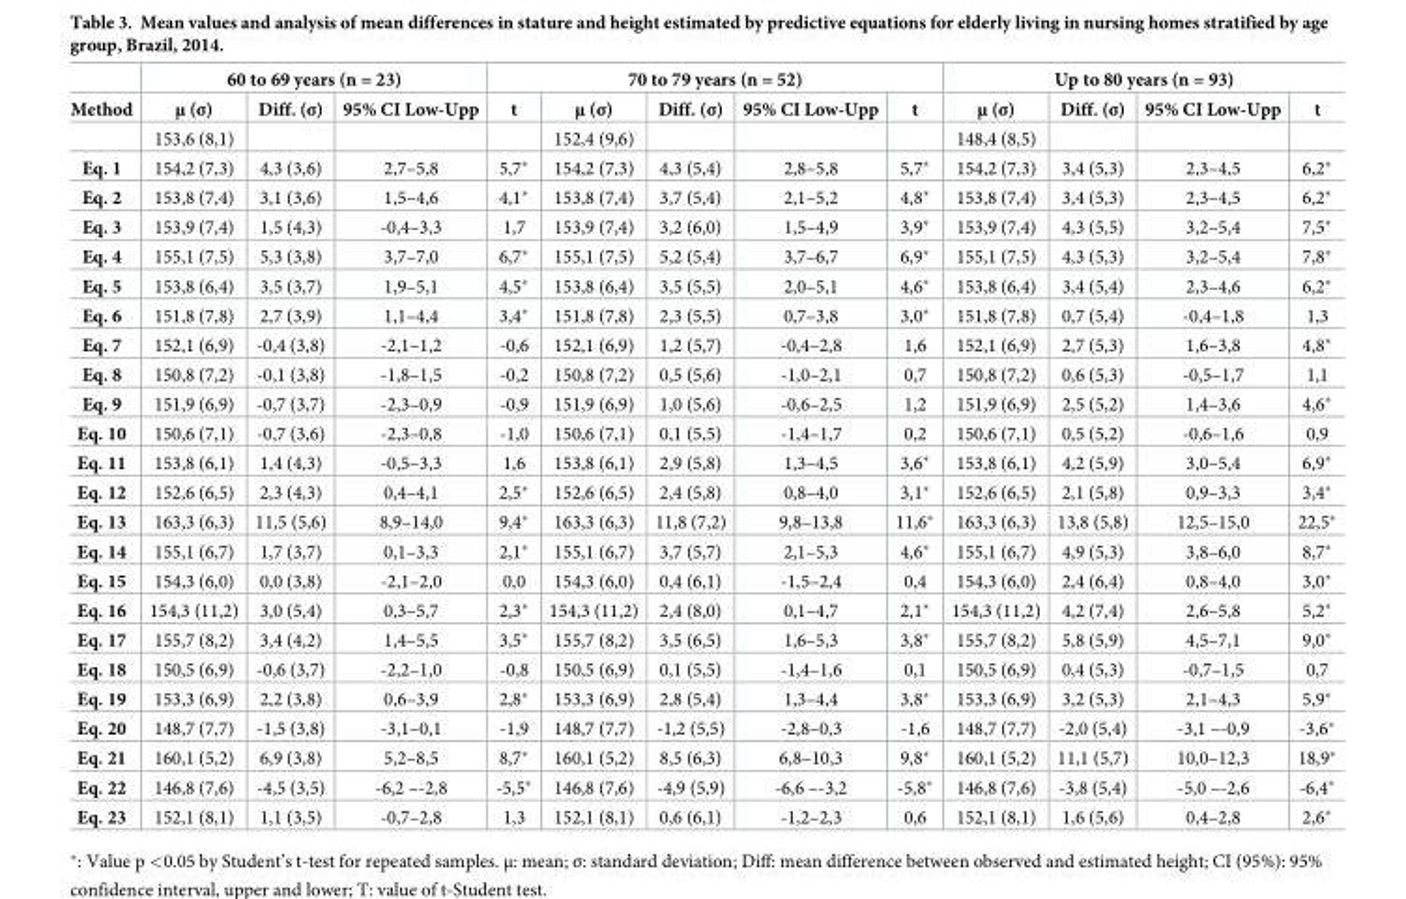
<table><thead><tr><td rowspan="2">Method</td><td colspan="3">60 to 69 years (n = 23)</td><td colspan="5">70 to 79 years (n = 52)</td><td colspan="4">Up to 80 years (n = 93)</td></tr><tr><td>μ (σ)</td><td>Diff. (σ)</td><td>95% CI Low-Upp</td><td>t</td><td>μ (σ)</td><td>Diff. (σ)</td><td>95% CI Low-Upp</td><td>t</td><td>μ (σ)</td><td>Diff. (σ)</td><td>95% CI Low-Upp</td><td>t</td></tr></thead><tbody><tr><td></td><td>153,6 (8,1)</td><td></td><td></td><td></td><td>152,4 (9,6)</td><td></td><td></td><td></td><td>148,4 (8,5)</td><td></td><td></td><td></td></tr><tr><td>Eq. 1</td><td>154,2 (7,3)</td><td>4,3 (3,6)</td><td>2,7–5,8</td><td>5,7*</td><td>154,2 (7,3)</td><td>4,3 (5,4)</td><td>2,8–5,8</td><td>5,7*</td><td>154,2 (7,3)</td><td>3,4 (5,3)</td><td>2,3–4,5</td><td>6,2*</td></tr><tr><td>Eq. 2</td><td>153,8 (7,4)</td><td>3,1 (3,6)</td><td>1,5–4,6</td><td>4,1*</td><td>153,8 (7,4)</td><td>3,7 (5,4)</td><td>2,1–5,2</td><td>4,8*</td><td>153,8 (7,4)</td><td>3,4 (5,3)</td><td>2,3–4,5</td><td>6,2*</td></tr><tr><td>Eq. 3</td><td>153,9 (7,4)</td><td>1,5 (4,3)</td><td>-0,4–3,3</td><td>1,7</td><td>153,9 (7,4)</td><td>3,2 (6,0)</td><td>1,5–4,9</td><td>3,9*</td><td>153,9 (7,4)</td><td>4,3 (5,5)</td><td>3,2–5,4</td><td>7,5*</td></tr><tr><td>Eq. 4</td><td>155,1 (7,5)</td><td>5,3 (3,8)</td><td>3,7–7,0</td><td>6,7*</td><td>155,1 (7,5)</td><td>5,2 (5,4)</td><td>3,7–6,7</td><td>6,9*</td><td>155,1 (7,5)</td><td>4,3 (5,3)</td><td>3,2–5,4</td><td>7,8*</td></tr><tr><td>Eq. 5</td><td>153,8 (6,4)</td><td>3,5 (3,7)</td><td>1,9–5,1</td><td>4,5*</td><td>153,8 (6,4)</td><td>3,5 (5,5)</td><td>2,0–5,1</td><td>4,6*</td><td>153,8 (6,4)</td><td>3,4 (5,4)</td><td>2,3–4,6</td><td>6,2*</td></tr><tr><td>Eq. 6</td><td>151,8 (7,8)</td><td>2,7 (3,9)</td><td>1,1–4,4</td><td>3,4*</td><td>151,8 (7,8)</td><td>2,3 (5,5)</td><td>0,7–3,8</td><td>3,0*</td><td>151,8 (7,8)</td><td>0,7 (5,4)</td><td>-0,4–1,8</td><td>1,3</td></tr><tr><td>Eq. 7</td><td>152,1 (6,9)</td><td>-0,4 (3,8)</td><td>-2,1–1,2</td><td>-0,6</td><td>152,1 (6,9)</td><td>1,2 (5,7)</td><td>-0,4–2,8</td><td>1,6</td><td>152,1 (6,9)</td><td>2,7 (5,3)</td><td>1,6–3,8</td><td>4,8*</td></tr><tr><td>Eq. 8</td><td>150,8 (7,2)</td><td>-0,1 (3,8)</td><td>-1,8–1,5</td><td>-0,2</td><td>150,8 (7,2)</td><td>0,5 (5,6)</td><td>-1,0–2,1</td><td>0,7</td><td>150,8 (7,2)</td><td>0,6 (5,3)</td><td>-0,5–1,7</td><td>1,1</td></tr><tr><td>Eq. 9</td><td>151,9 (6,9)</td><td>-0,7 (3,7)</td><td>-2,3–0,9</td><td>-0,9</td><td>151,9 (6,9)</td><td>1,0 (5,6)</td><td>-0,6–2,5</td><td>1,2</td><td>151,9 (6,9)</td><td>2,5 (5,2)</td><td>1,4–3,6</td><td>4,6*</td></tr><tr><td>Eq. 10</td><td>150,6 (7,1)</td><td>-0,7 (3,6)</td><td>-2,3–0,8</td><td>-1,0</td><td>150,6 (7,1)</td><td>0,1 (5,5)</td><td>-1,4–1,7</td><td>0,2</td><td>150,6 (7,1)</td><td>0,5 (5,2)</td><td>-0,6–1,6</td><td>0,9</td></tr><tr><td>Eq. 11</td><td>153,8 (6,1)</td><td>1,4 (4,3)</td><td>-0,5–3,3</td><td>1,6</td><td>153,8 (6,1)</td><td>2,9 (5,8)</td><td>1,3–4,5</td><td>3,6*</td><td>153,8 (6,1)</td><td>4,2 (5,9)</td><td>3,0–5,4</td><td>6,9*</td></tr><tr><td>Eq. 12</td><td>152,6 (6,5)</td><td>2,3 (4,3)</td><td>0,4–4,1</td><td>2,5*</td><td>152,6 (6,5)</td><td>2,4 (5,8)</td><td>0,8–4,0</td><td>3,1*</td><td>152,6 (6,5)</td><td>2,1 (5,8)</td><td>0,9–3,3</td><td>3,4*</td></tr><tr><td>Eq. 13</td><td>163,3 (6,3)</td><td>11,5 (5,6)</td><td>8,9–14,0</td><td>9,4*</td><td>163,3 (6,3)</td><td>11,8 (7,2)</td><td>9,8–13,8</td><td>11,6*</td><td>163,3 (6,3)</td><td>13,8 (5,8)</td><td>12,5–15,0</td><td>22,5*</td></tr><tr><td>Eq. 14</td><td>155,1 (6,7)</td><td>1,7 (3,7)</td><td>0,1–3,3</td><td>2,1*</td><td>155,1 (6,7)</td><td>3,7 (5,7)</td><td>2,1–5,3</td><td>4,6*</td><td>155,1 (6,7)</td><td>4,9 (5,3)</td><td>3,8–6,0</td><td>8,7*</td></tr><tr><td>Eq. 15</td><td>154,3 (6,0)</td><td>0,0 (3,8)</td><td>-2,1–2,0</td><td>0,0</td><td>154,3 (6,0)</td><td>0,4 (6,1)</td><td>-1,5–2,4</td><td>0,4</td><td>154,3 (6,0)</td><td>2,4 (6,4)</td><td>0,8–4,0</td><td>3,0*</td></tr><tr><td>Eq. 16</td><td>154,3 (11,2)</td><td>3,0 (5,4)</td><td>0,3–5,7</td><td>2,3*</td><td>154,3 (11,2)</td><td>2,4 (8,0)</td><td>0,1–4,7</td><td>2,1*</td><td>154,3 (11,2)</td><td>4,2 (7,4)</td><td>2,6–5,8</td><td>5,2*</td></tr><tr><td>Eq. 17</td><td>155,7 (8,2)</td><td>3,4 (4,2)</td><td>1,4–5,5</td><td>3,5*</td><td>155,7 (8,2)</td><td>3,5 (6,5)</td><td>1,6–5,3</td><td>3,8*</td><td>155,7 (8,2)</td><td>5,8 (5,9)</td><td>4,5–7,1</td><td>9,0*</td></tr><tr><td>Eq. 18</td><td>150,5 (6,9)</td><td>-0,6 (3,7)</td><td>-2,2–1,0</td><td>-0,8</td><td>150,5 (6,9)</td><td>0,1 (5,5)</td><td>-1,4–1,6</td><td>0,1</td><td>150,5 (6,9)</td><td>0,4 (5,3)</td><td>-0,7–1,5</td><td>0,7</td></tr><tr><td>Eq. 19</td><td>153,3 (6,9)</td><td>2,2 (3,8)</td><td>0,6–3,9</td><td>2,8*</td><td>153,3 (6,9)</td><td>2,8 (5,4)</td><td>1,3–4,4</td><td>3,8*</td><td>153,3 (6,9)</td><td>3,2 (5,3)</td><td>2,1–4,3</td><td>5,9*</td></tr><tr><td>Eq. 20</td><td>148,7 (7,7)</td><td>-1,5 (3,8)</td><td>-3,1–0,1</td><td>-1,9</td><td>148,7 (7,7)</td><td>-1,2 (5,5)</td><td>-2,8–0,3</td><td>-1,6</td><td>148,7 (7,7)</td><td>-2,0 (5,4)</td><td>-3,1 –-0,9</td><td>-3,6*</td></tr><tr><td>Eq. 21</td><td>160,1 (5,2)</td><td>6,9 (3,8)</td><td>5,2–8,5</td><td>8,7*</td><td>160,1 (5,2)</td><td>8,5 (6,3)</td><td>6,8–10,3</td><td>9,8*</td><td>160,1 (5,2)</td><td>11,1 (5,7)</td><td>10,0–12,3</td><td>18,9*</td></tr><tr><td>Eq. 22</td><td>146,8 (7,6)</td><td>-4,5 (3,5)</td><td>-6,2 –-2,8</td><td>-5,5*</td><td>146,8 (7,6)</td><td>-4,9 (5,9)</td><td>-6,6 –-3,2</td><td>-5,8*</td><td>146,8 (7,6)</td><td>-3,8 (5,4)</td><td>-5,0 –-2,6</td><td>-6,4*</td></tr><tr><td>Eq. 23</td><td>152,1 (8,1)</td><td>1,1 (3,5)</td><td>-0,7–2,8</td><td>1,3</td><td>152,1 (8,1)</td><td>0,6 (6,1)</td><td>-1,2–2,3</td><td>0,6</td><td>152,1 (8,1)</td><td>1,6 (5,6)</td><td>0,4–2,8</td><td>2,6*</td></tr></tbody></table>